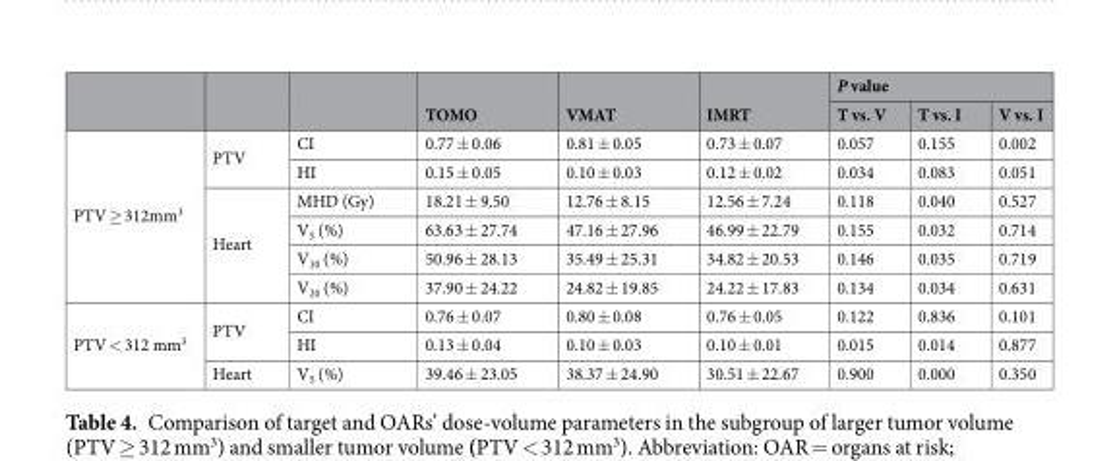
<table><thead><tr><td rowspan="2"></td><td rowspan="2"></td><td rowspan="2"></td><td rowspan="2">TOMO</td><td rowspan="2">VMAT</td><td rowspan="2">IMRT</td><td colspan="3">P value</td></tr><tr><td>T vs. V</td><td>T vs. I</td><td>V vs. I</td></tr></thead><tbody><tr><td rowspan="6">PTV ≥ 312mm<sup>3</sup></td><td rowspan="2">PTV</td><td>CI</td><td>0.77 ± 0.06</td><td>0.81 ± 0.05</td><td>0.73 ± 0.07</td><td>0.057</td><td>0.155</td><td>0.002</td></tr><tr><td>HI</td><td>0.15 ± 0.05</td><td>0.10 ± 0.03</td><td>0.12 ± 0.02</td><td>0.034</td><td>0.083</td><td>0.051</td></tr><tr><td rowspan="4">Heart</td><td>MHD (Gy)</td><td>18.21 ± 9.50</td><td>12.76 ± 8.15</td><td>12.56 ± 7.24</td><td>0.118</td><td>0.040</td><td>0.527</td></tr><tr><td>V<sub>5</sub> (%)</td><td>63.63 ± 27.74</td><td>47.16 ± 27.96</td><td>46.99 ± 22.79</td><td>0.155</td><td>0.032</td><td>0.714</td></tr><tr><td>V<sub>10</sub> (%)</td><td>50.96 ± 28.13</td><td>35.49 ± 25.31</td><td>34.82 ± 20.53</td><td>0.146</td><td>0.035</td><td>0.719</td></tr><tr><td>V<sub>20</sub> (%)</td><td>37.90 ± 24.22</td><td>24.82 ± 19.85</td><td>24.22 ± 17.83</td><td>0.134</td><td>0.034</td><td>0.631</td></tr><tr><td rowspan="3">PTV &lt; 312 mm<sup>3</sup></td><td rowspan="2">PTV</td><td>CI</td><td>0.76 ± 0.07</td><td>0.80 ± 0.08</td><td>0.76 ± 0.05</td><td>0.122</td><td>0.836</td><td>0.101</td></tr><tr><td>HI</td><td>0.13 ± 0.04</td><td>0.10 ± 0.03</td><td>0.10 ± 0.01</td><td>0.015</td><td>0.014</td><td>0.877</td></tr><tr><td>Heart</td><td>V<sub>5</sub> (%)</td><td>39.46 ± 23.05</td><td>38.37 ± 24.90</td><td>30.51 ± 22.67</td><td>0.900</td><td>0.000</td><td>0.350</td></tr></tbody></table>